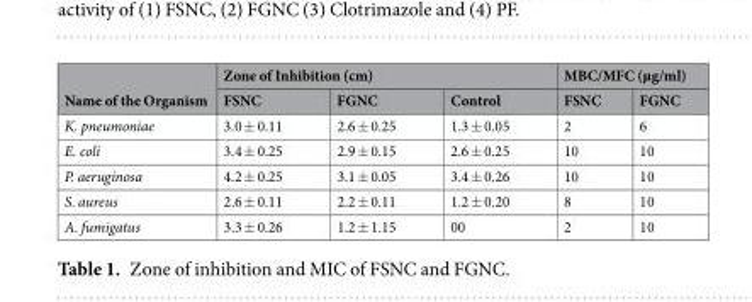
<table><thead><tr><td rowspan="2">Name of the Organism</td><td colspan="3">Zone of Inhibition (cm)</td><td colspan="2">MBC/MFC (µg/ml)</td></tr><tr><td>FSNC</td><td>FGNC</td><td>Control</td><td>FSNC</td><td>FGNC</td></tr></thead><tbody><tr><td>K. pneumoniae</td><td>3.0 ± 0.11</td><td>2.6 ± 0.25</td><td>1.3 ± 0.05</td><td>2</td><td>6</td></tr><tr><td>E. coli</td><td>3.4 ± 0.25</td><td>2.9 ± 0.15</td><td>2.6 ± 0.25</td><td>10</td><td>10</td></tr><tr><td>P. aeruginosa</td><td>4.2 ± 0.25</td><td>3.1 ± 0.05</td><td>3.4 ± 0.26</td><td>10</td><td>10</td></tr><tr><td>S. aureus</td><td>2.6 ± 0.11</td><td>2.2 ± 0.11</td><td>1.2 ± 0.20</td><td>8</td><td>10</td></tr><tr><td>A. fumigatus</td><td>3.3 ± 0.26</td><td>1.2 ± 1.15</td><td>00</td><td>2</td><td>10</td></tr></tbody></table>